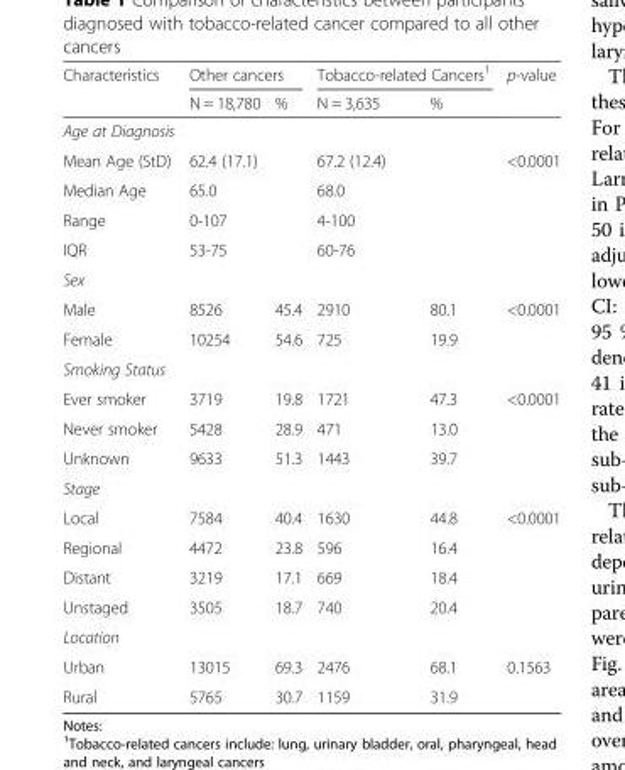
<table><thead><tr><td rowspan="2">Characteristics</td><td colspan="2">Other cancers</td><td colspan="2">Tobacco-related Cancers<sup>1</sup></td><td rowspan="2">p-value</td></tr><tr><td>N = 18,780</td><td>%</td><td>N = 3,635</td><td>%</td></tr></thead><tbody><tr><td colspan="6">Age at Diagnosis</td></tr><tr><td>Mean Age (StD)</td><td colspan="2">62.4 (17.1)</td><td colspan="2">67.2 (12.4)</td><td>&lt;0.0001</td></tr><tr><td>Median Age</td><td>65.0</td><td></td><td>68.0</td><td></td><td></td></tr><tr><td>Range</td><td>0-107</td><td></td><td>4-100</td><td></td><td></td></tr><tr><td>IQR</td><td>53-75</td><td></td><td>60-76</td><td></td><td></td></tr><tr><td colspan="6">Sex</td></tr><tr><td>Male</td><td>8526</td><td>45.4</td><td>2910</td><td>80.1</td><td rowspan="2">&lt;0.0001</td></tr><tr><td>Female</td><td>10254</td><td>54.6</td><td>725</td><td>19.9</td></tr><tr><td colspan="6">Smoking Status</td></tr><tr><td>Ever smoker</td><td>3719</td><td>19.8</td><td>1721</td><td>47.3</td><td rowspan="3">&lt;0.0001</td></tr><tr><td>Never smoker</td><td>5428</td><td>28.9</td><td>471</td><td>13.0</td></tr><tr><td>Unknown</td><td>9633</td><td>51.3</td><td>1443</td><td>39.7</td></tr><tr><td colspan="6">Stage</td></tr><tr><td>Local</td><td>7584</td><td>40.4</td><td>1630</td><td>44.8</td><td rowspan="4">&lt;0.0001</td></tr><tr><td>Regional</td><td>4472</td><td>23.8</td><td>596</td><td>16.4</td></tr><tr><td>Distant</td><td>3219</td><td>17.1</td><td>669</td><td>18.4</td></tr><tr><td>Unstaged</td><td>3505</td><td>18.7</td><td>740</td><td>20.4</td></tr><tr><td colspan="6">Location</td></tr><tr><td>Urban</td><td>13015</td><td>69.3</td><td>2476</td><td>68.1</td><td rowspan="2">0.1563</td></tr><tr><td>Rural</td><td>5765</td><td>30.7</td><td>1159</td><td>31.9</td></tr></tbody></table>